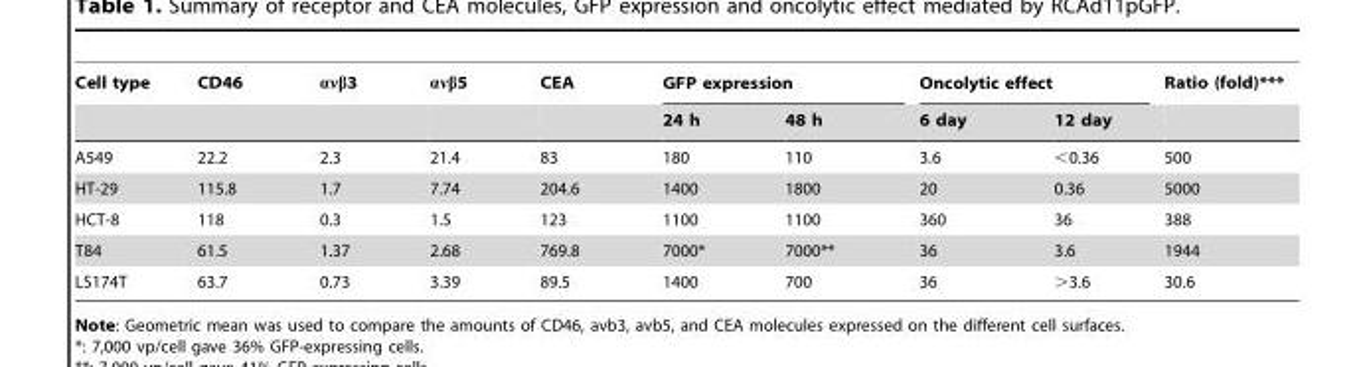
<table><thead><tr><td rowspan="2">Cell type</td><td rowspan="2">CD46</td><td rowspan="2">ανβ3</td><td rowspan="2">ανβ5</td><td rowspan="2">CEA</td><td colspan="2">GFP expression</td><td colspan="2">Oncolytic effect</td><td rowspan="2">Ratio (fold)***</td></tr><tr><td>24 h</td><td>48 h</td><td>6 day</td><td>12 day</td></tr></thead><tbody><tr><td>A549</td><td>22.2</td><td>2.3</td><td>21.4</td><td>83</td><td>180</td><td>110</td><td>3.6</td><td>&lt;0.36</td><td>500</td></tr><tr><td>HT-29</td><td>115.8</td><td>1.7</td><td>7.74</td><td>204.6</td><td>1400</td><td>1800</td><td>20</td><td>0.36</td><td>5000</td></tr><tr><td>HCT-8</td><td>118</td><td>0.3</td><td>1.5</td><td>123</td><td>1100</td><td>1100</td><td>360</td><td>36</td><td>388</td></tr><tr><td>T84</td><td>61.5</td><td>1.37</td><td>2.68</td><td>769.8</td><td>7000*</td><td>7000**</td><td>36</td><td>3.6</td><td>1944</td></tr><tr><td>LS174T</td><td>63.7</td><td>0.73</td><td>3.39</td><td>89.5</td><td>1400</td><td>700</td><td>36</td><td>&gt;3.6</td><td>30.6</td></tr></tbody></table>